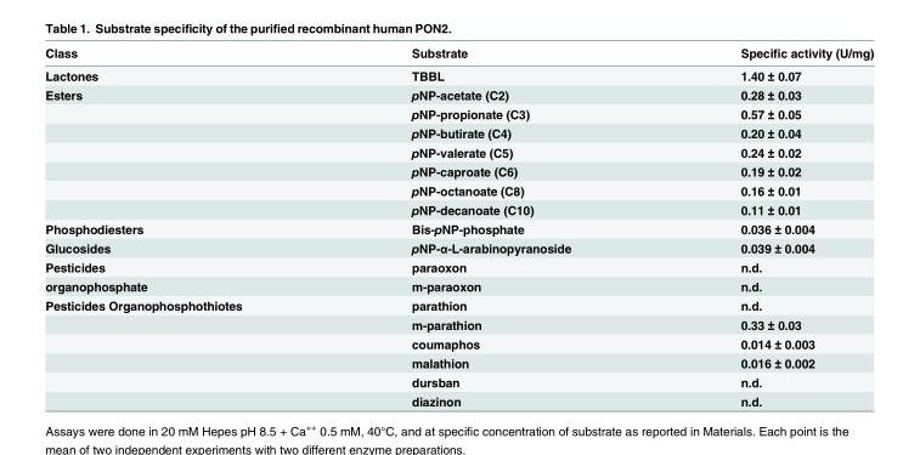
<table><thead><tr><td>Class</td><td>Substrate</td><td>Specific activity (U/mg)</td></tr></thead><tbody><tr><td>Lactones</td><td>TBBL</td><td>1.40 ± 0.07</td></tr><tr><td rowspan="7">Esters</td><td>pNP-acetate (C2)</td><td>0.28 ± 0.03</td></tr><tr><td>pNP-propionate (C3)</td><td>0.57 ± 0.05</td></tr><tr><td>pNP-butirate (C4)</td><td>0.20 ± 0.04</td></tr><tr><td>pNP-valerate (C5)</td><td>0.24 ± 0.02</td></tr><tr><td>pNP-caproate (C6)</td><td>0.19 ± 0.02</td></tr><tr><td>pNP-octanoate (C8)</td><td>0.16 ± 0.01</td></tr><tr><td>pNP-decanoate (C10)</td><td>0.11 ± 0.01</td></tr><tr><td>Phosphodiesters</td><td>Bis-pNP-phosphate</td><td>0.036 ± 0.004</td></tr><tr><td>Glucosides</td><td>pNP-α-L-arabinopyranoside</td><td>0.039 ± 0.004</td></tr><tr><td>Pesticides</td><td>paraoxon</td><td>n.d.</td></tr><tr><td>organophosphate</td><td>m-paraoxon</td><td>n.d.</td></tr><tr><td rowspan="6">Pesticides Organophosphothiotes</td><td>parathion</td><td>n.d.</td></tr><tr><td>m-parathion</td><td>0.33 ± 0.03</td></tr><tr><td>coumaphos</td><td>0.014 ± 0.003</td></tr><tr><td>malathion</td><td>0.016 ± 0.002</td></tr><tr><td>dursban</td><td>n.d.</td></tr><tr><td>diazinon</td><td>n.d.</td></tr></tbody></table>